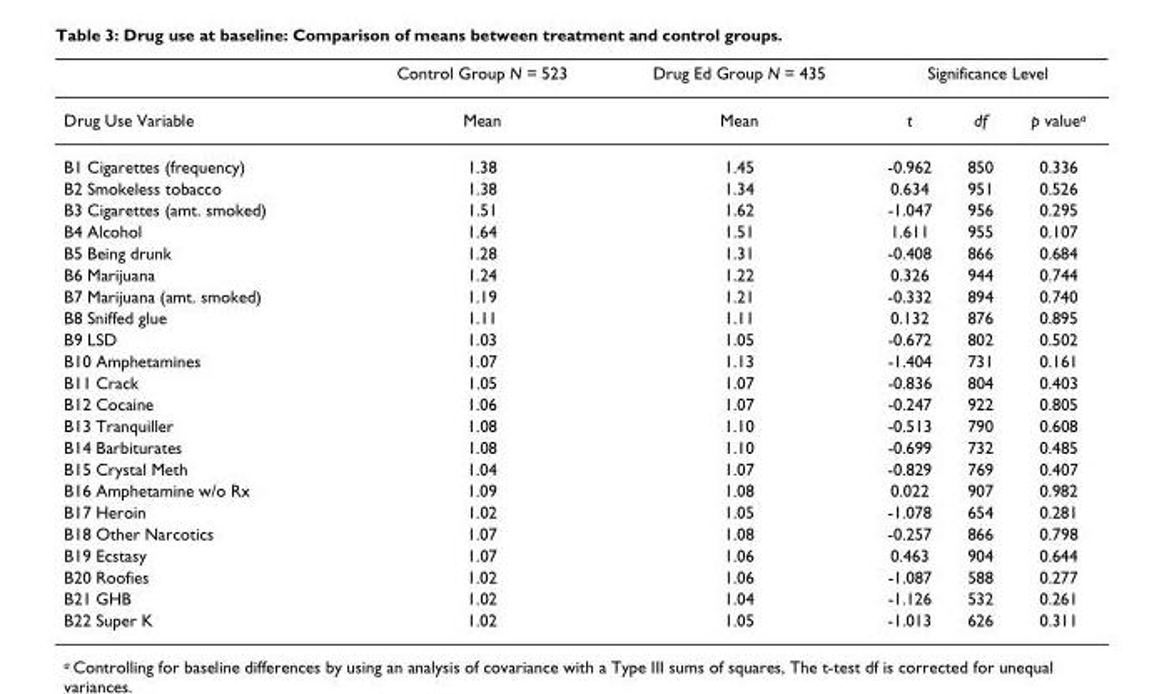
<table><thead><tr><td rowspan="2">Drug Use Variable</td><td rowspan="2">Control Group N = 523 Mean</td><td rowspan="2">Drug Ed Group N = 435 Mean</td><td colspan="3">Significance Level</td></tr><tr><td>t</td><td>df</td><td>p valuea</td></tr></thead><tbody><tr><td>B1 Cigarettes (frequency)</td><td>1.38</td><td>1.45</td><td>-0.962</td><td>850</td><td>0.336</td></tr><tr><td>B2 Smokeless tobacco</td><td>1.38</td><td>1.34</td><td>0.634</td><td>951</td><td>0.526</td></tr><tr><td>B3 Cigarettes (amt. smoked)</td><td>1.51</td><td>1.62</td><td>-1.047</td><td>956</td><td>0.295</td></tr><tr><td>B4 Alcohol</td><td>1.64</td><td>1.51</td><td>1.611</td><td>955</td><td>0.107</td></tr><tr><td>B5 Being drunk</td><td>1.28</td><td>1.31</td><td>-0.408</td><td>866</td><td>0.684</td></tr><tr><td>B6 Marijuana</td><td>1.24</td><td>1.22</td><td>0.326</td><td>944</td><td>0.744</td></tr><tr><td>B7 Marijuana (amt. smoked)</td><td>1.19</td><td>1.21</td><td>-0.332</td><td>894</td><td>0.740</td></tr><tr><td>B8 Sniffed glue</td><td>1.11</td><td>1.11</td><td>0.132</td><td>876</td><td>0.895</td></tr><tr><td>B9 LSD</td><td>1.03</td><td>1.05</td><td>-0.672</td><td>802</td><td>0.502</td></tr><tr><td>B10 Amphetamines</td><td>1.07</td><td>1.13</td><td>-1.404</td><td>731</td><td>0.161</td></tr><tr><td>B11 Crack</td><td>1.05</td><td>1.07</td><td>-0.836</td><td>804</td><td>0.403</td></tr><tr><td>B12 Cocaine</td><td>1.06</td><td>1.07</td><td>-0.247</td><td>922</td><td>0.805</td></tr><tr><td>B13 Tranquiller</td><td>1.08</td><td>1.10</td><td>-0.513</td><td>790</td><td>0.608</td></tr><tr><td>B14 Barbiturates</td><td>1.08</td><td>1.10</td><td>-0.699</td><td>732</td><td>0.485</td></tr><tr><td>B15 Crystal Meth</td><td>1.04</td><td>1.07</td><td>-0.829</td><td>769</td><td>0.407</td></tr><tr><td>B16 Amphetamine w/o Rx</td><td>1.09</td><td>1.08</td><td>0.022</td><td>907</td><td>0.982</td></tr><tr><td>B17 Heroin</td><td>1.02</td><td>1.05</td><td>-1.078</td><td>654</td><td>0.281</td></tr><tr><td>B18 Other Narcotics</td><td>1.07</td><td>1.08</td><td>-0.257</td><td>866</td><td>0.798</td></tr><tr><td>B19 Ecstasy</td><td>1.07</td><td>1.06</td><td>0.463</td><td>904</td><td>0.644</td></tr><tr><td>B20 Roofies</td><td>1.02</td><td>1.06</td><td>-1.087</td><td>588</td><td>0.277</td></tr><tr><td>B21 GHB</td><td>1.02</td><td>1.04</td><td>-1.126</td><td>532</td><td>0.261</td></tr><tr><td>B22 Super K</td><td>1.02</td><td>1.05</td><td>-1.013</td><td>626</td><td>0.311</td></tr></tbody></table>